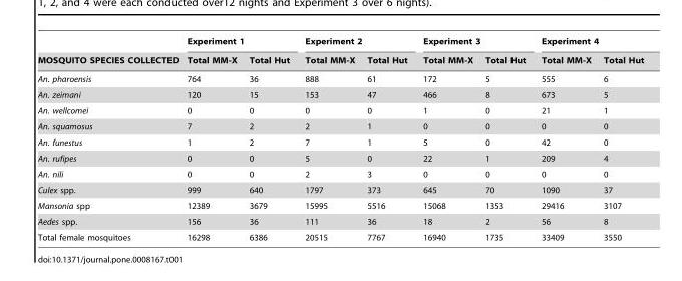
<table><thead><tr><td rowspan="2">MOSQUITO SPECIES COLLECTED</td><td colspan="2">Experiment 1</td><td colspan="2">Experiment 2</td><td colspan="2">Experiment 3</td><td colspan="2">Experiment 4</td></tr><tr><td>Total MM-X</td><td>Total Hut</td><td>Total MM-X</td><td>Total Hut</td><td>Total MM-X</td><td>Total Hut</td><td>Total MM-X</td><td>Total Hut</td></tr></thead><tbody><tr><td>An. pharoensis</td><td>764</td><td>36</td><td>888</td><td>61</td><td>172</td><td>5</td><td>555</td><td>6</td></tr><tr><td>An. zeimani</td><td>120</td><td>15</td><td>153</td><td>47</td><td>466</td><td>8</td><td>673</td><td>5</td></tr><tr><td>An. wellcomei</td><td>0</td><td>0</td><td>0</td><td>0</td><td>1</td><td>0</td><td>21</td><td>1</td></tr><tr><td>An. squamosus</td><td>7</td><td>2</td><td>2</td><td>1</td><td>0</td><td>0</td><td>0</td><td>0</td></tr><tr><td>An. funestus</td><td>1</td><td>2</td><td>7</td><td>1</td><td>5</td><td>0</td><td>42</td><td>0</td></tr><tr><td>An. rufipes</td><td>0</td><td>0</td><td>5</td><td>0</td><td>22</td><td>1</td><td>209</td><td>4</td></tr><tr><td>An. nili</td><td>0</td><td>0</td><td>2</td><td>3</td><td>0</td><td>0</td><td>0</td><td>0</td></tr><tr><td>Culex spp.</td><td>999</td><td>640</td><td>1797</td><td>373</td><td>645</td><td>70</td><td>1090</td><td>37</td></tr><tr><td>Mansonia spp</td><td>12389</td><td>3679</td><td>15995</td><td>5516</td><td>15068</td><td>1353</td><td>29416</td><td>3107</td></tr><tr><td>Aedes spp.</td><td>156</td><td>36</td><td>111</td><td>36</td><td>18</td><td>2</td><td>56</td><td>8</td></tr><tr><td>Total female mosquitoes</td><td>16298</td><td>6386</td><td>20515</td><td>7767</td><td>16940</td><td>1735</td><td>33409</td><td>3550</td></tr></tbody></table>